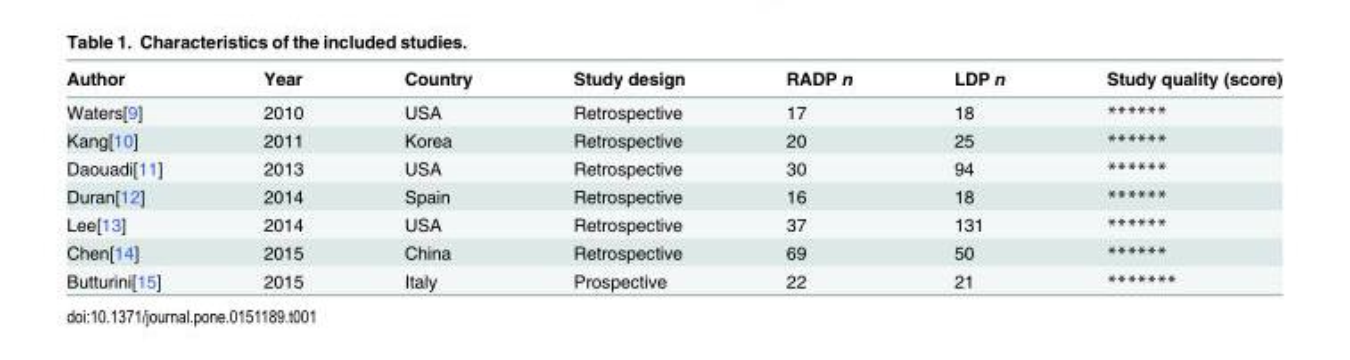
<table><thead><tr><td>Author</td><td>Year</td><td>Country</td><td>Study design</td><td>RADP n</td><td>LDP n</td><td>Study quality (score)</td></tr></thead><tbody><tr><td>Waters[9]</td><td>2010</td><td>USA</td><td>Retrospective</td><td>17</td><td>18</td><td>******</td></tr><tr><td>Kang[10]</td><td>2011</td><td>Korea</td><td>Retrospective</td><td>20</td><td>25</td><td>******</td></tr><tr><td>Daouadi[11]</td><td>2013</td><td>USA</td><td>Retrospective</td><td>30</td><td>94</td><td>******</td></tr><tr><td>Duran[12]</td><td>2014</td><td>Spain</td><td>Retrospective</td><td>16</td><td>18</td><td>******</td></tr><tr><td>Lee[13]</td><td>2014</td><td>USA</td><td>Retrospective</td><td>37</td><td>131</td><td>******</td></tr><tr><td>Chen[14]</td><td>2015</td><td>China</td><td>Retrospective</td><td>69</td><td>50</td><td>******</td></tr><tr><td>Butturini[15]</td><td>2015</td><td>Italy</td><td>Prospective</td><td>22</td><td>21</td><td>*******</td></tr></tbody></table>